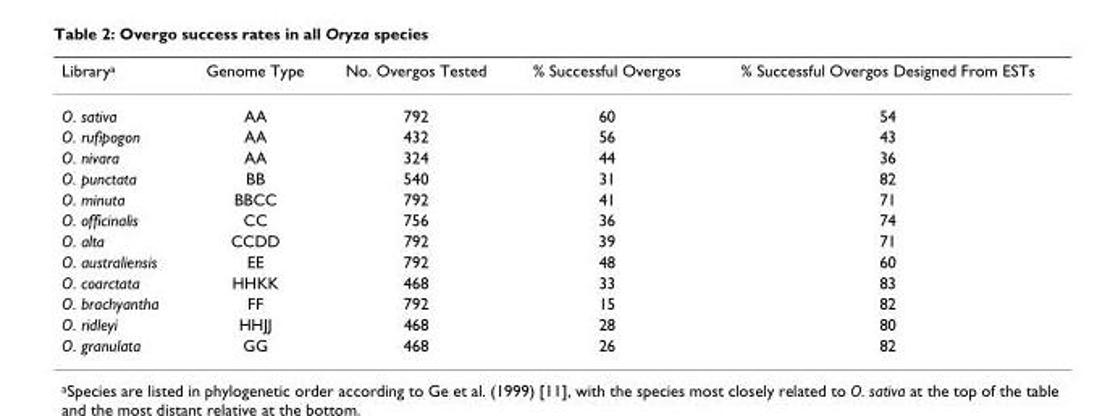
<table><thead><tr><td>Library<sup>a</sup></td><td>Genome Type</td><td>No. Overgos Tested</td><td>% Successful Overgos</td><td>% Successful Overgos Designed From ESTs</td></tr></thead><tbody><tr><td>O. sativa</td><td>AA</td><td>792</td><td>60</td><td>54</td></tr><tr><td>O. rufipogon</td><td>AA</td><td>432</td><td>56</td><td>43</td></tr><tr><td>O. nivara</td><td>AA</td><td>324</td><td>44</td><td>36</td></tr><tr><td>O. punctata</td><td>BB</td><td>540</td><td>31</td><td>82</td></tr><tr><td>O. minuta</td><td>BBCC</td><td>792</td><td>41</td><td>71</td></tr><tr><td>O. officinalis</td><td>CC</td><td>756</td><td>36</td><td>74</td></tr><tr><td>O. alta</td><td>CCDD</td><td>792</td><td>39</td><td>71</td></tr><tr><td>O. australiensis</td><td>EE</td><td>792</td><td>48</td><td>60</td></tr><tr><td>O. coarctata</td><td>HHKK</td><td>468</td><td>33</td><td>83</td></tr><tr><td>O. brachyantha</td><td>FF</td><td>792</td><td>15</td><td>82</td></tr><tr><td>O. ridleyi</td><td>HHJJ</td><td>468</td><td>28</td><td>80</td></tr><tr><td>O. granulata</td><td>GG</td><td>468</td><td>26</td><td>82</td></tr></tbody></table>